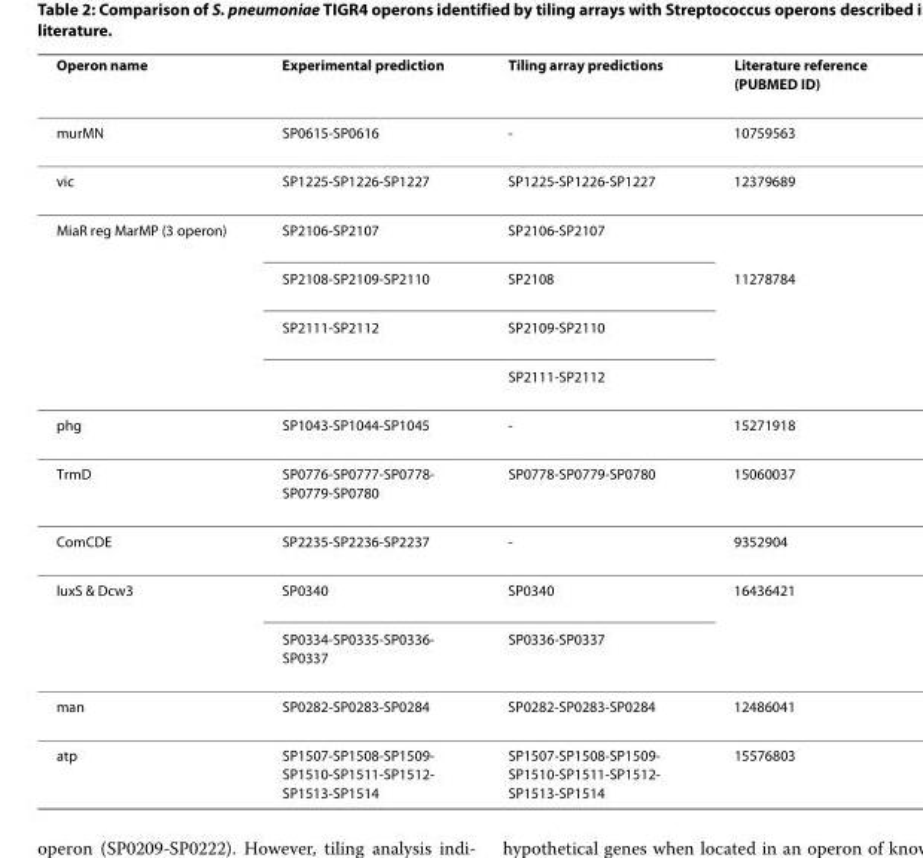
<table><thead><tr><td>Operon name</td><td>Experimental prediction</td><td>Tiling array predictions</td><td>Literature reference (PUBMED ID)</td></tr></thead><tbody><tr><td>murMN</td><td>SP0615-SP0616</td><td>-</td><td>10759563</td></tr><tr><td>vic</td><td>SP1225-SP1226-SP1227</td><td>SP1225-SP1226-SP1227</td><td>12379689</td></tr><tr><td rowspan="4">MiaR reg MarMP (3 operon)</td><td>SP2106-SP2107</td><td>SP2106-SP2107</td><td></td></tr><tr><td>SP2108-SP2109-SP2110</td><td>SP2108</td><td>11278784</td></tr><tr><td>SP2111-SP2112</td><td>SP2109-SP2110</td><td></td></tr><tr><td></td><td>SP2111-SP2112</td><td></td></tr><tr><td>phg</td><td>SP1043-SP1044-SP1045</td><td>-</td><td>15271918</td></tr><tr><td>TrmD</td><td>SP0776-SP0777-SP0778- SP0779-SP0780</td><td>SP0778-SP0779-SP0780</td><td>15060037</td></tr><tr><td>ComCDE</td><td>SP2235-SP2236-SP2237</td><td>-</td><td>9352904</td></tr><tr><td rowspan="2">luxS &amp; Dcw3</td><td>SP0340</td><td>SP0340</td><td>16436421</td></tr><tr><td>SP0334-SP0335-SP0336- SP0337</td><td>SP0336-SP0337</td><td></td></tr><tr><td>man</td><td>SP0282-SP0283-SP0284</td><td>SP0282-SP0283-SP0284</td><td>12486041</td></tr><tr><td>atp</td><td>SP1507-SP1508-SP1509- SP1510-SP1511-SP1512- SP1513-SP1514</td><td>SP1507-SP1508-SP1509- SP1510-SP1511-SP1512- SP1513-SP1514</td><td>15576803</td></tr></tbody></table>